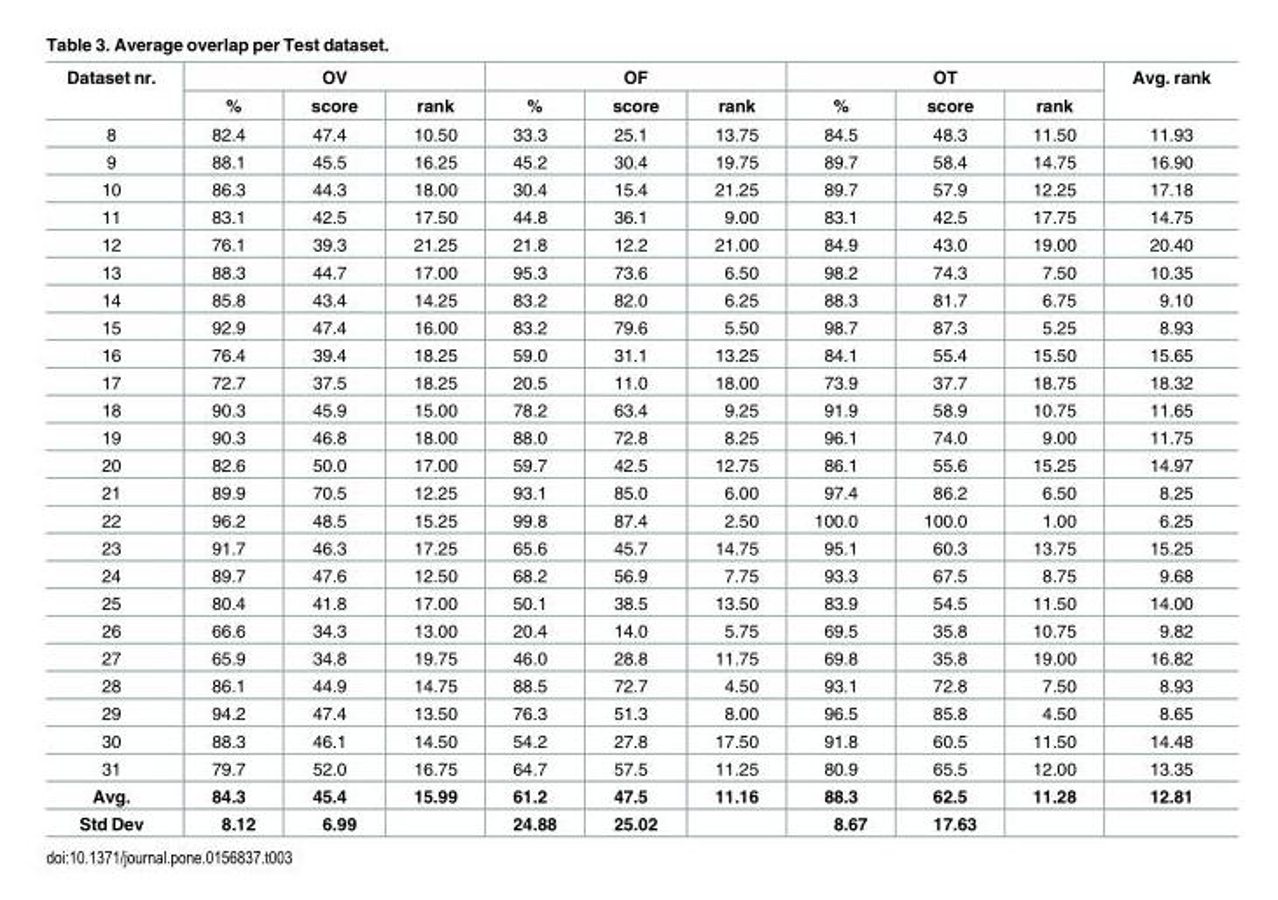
<table><thead><tr><td rowspan="2">Dataset nr.</td><td colspan="3">OV</td><td colspan="3">OF</td><td colspan="3">OT</td><td rowspan="2">Avg. rank</td></tr><tr><td>%</td><td>score</td><td>rank</td><td>%</td><td>score</td><td>rank</td><td>%</td><td>score</td><td>rank</td></tr></thead><tbody><tr><td>8</td><td>82.4</td><td>47.4</td><td>10.50</td><td>33.3</td><td>25.1</td><td>13.75</td><td>84.5</td><td>48.3</td><td>11.50</td><td>11.93</td></tr><tr><td>9</td><td>88.1</td><td>45.5</td><td>16.25</td><td>45.2</td><td>30.4</td><td>19.75</td><td>89.7</td><td>58.4</td><td>14.75</td><td>16.90</td></tr><tr><td>10</td><td>86.3</td><td>44.3</td><td>18.00</td><td>30.4</td><td>15.4</td><td>21.25</td><td>89.7</td><td>57.9</td><td>12.25</td><td>17.18</td></tr><tr><td>11</td><td>83.1</td><td>42.5</td><td>17.50</td><td>44.8</td><td>36.1</td><td>9.00</td><td>83.1</td><td>42.5</td><td>17.75</td><td>14.75</td></tr><tr><td>12</td><td>76.1</td><td>39.3</td><td>21.25</td><td>21.8</td><td>12.2</td><td>21.00</td><td>84.9</td><td>43.0</td><td>19.00</td><td>20.40</td></tr><tr><td>13</td><td>88.3</td><td>44.7</td><td>17.00</td><td>95.3</td><td>73.6</td><td>6.50</td><td>98.2</td><td>74.3</td><td>7.50</td><td>10.35</td></tr><tr><td>14</td><td>85.8</td><td>43.4</td><td>14.25</td><td>83.2</td><td>82.0</td><td>6.25</td><td>88.3</td><td>81.7</td><td>6.75</td><td>9.10</td></tr><tr><td>15</td><td>92.9</td><td>47.4</td><td>16.00</td><td>83.2</td><td>79.6</td><td>5.50</td><td>98.7</td><td>87.3</td><td>5.25</td><td>8.93</td></tr><tr><td>16</td><td>76.4</td><td>39.4</td><td>18.25</td><td>59.0</td><td>31.1</td><td>13.25</td><td>84.1</td><td>55.4</td><td>15.50</td><td>15.65</td></tr><tr><td>17</td><td>72.7</td><td>37.5</td><td>18.25</td><td>20.5</td><td>11.0</td><td>18.00</td><td>73.9</td><td>37.7</td><td>18.75</td><td>18.32</td></tr><tr><td>18</td><td>90.3</td><td>45.9</td><td>15.00</td><td>78.2</td><td>63.4</td><td>9.25</td><td>91.9</td><td>58.9</td><td>10.75</td><td>11.65</td></tr><tr><td>19</td><td>90.3</td><td>46.8</td><td>18.00</td><td>88.0</td><td>72.8</td><td>8.25</td><td>96.1</td><td>74.0</td><td>9.00</td><td>11.75</td></tr><tr><td>20</td><td>82.6</td><td>50.0</td><td>17.00</td><td>59.7</td><td>42.5</td><td>12.75</td><td>86.1</td><td>55.6</td><td>15.25</td><td>14.97</td></tr><tr><td>21</td><td>89.9</td><td>70.5</td><td>12.25</td><td>93.1</td><td>85.0</td><td>6.00</td><td>97.4</td><td>86.2</td><td>6.50</td><td>8.25</td></tr><tr><td>22</td><td>96.2</td><td>48.5</td><td>15.25</td><td>99.8</td><td>87.4</td><td>2.50</td><td>100.0</td><td>100.0</td><td>1.00</td><td>6.25</td></tr><tr><td>23</td><td>91.7</td><td>46.3</td><td>17.25</td><td>65.6</td><td>45.7</td><td>14.75</td><td>95.1</td><td>60.3</td><td>13.75</td><td>15.25</td></tr><tr><td>24</td><td>89.7</td><td>47.6</td><td>12.50</td><td>68.2</td><td>56.9</td><td>7.75</td><td>93.3</td><td>67.5</td><td>8.75</td><td>9.68</td></tr><tr><td>25</td><td>80.4</td><td>41.8</td><td>17.00</td><td>50.1</td><td>38.5</td><td>13.50</td><td>83.9</td><td>54.5</td><td>11.50</td><td>14.00</td></tr><tr><td>26</td><td>66.6</td><td>34.3</td><td>13.00</td><td>20.4</td><td>14.0</td><td>5.75</td><td>69.5</td><td>35.8</td><td>10.75</td><td>9.82</td></tr><tr><td>27</td><td>65.9</td><td>34.8</td><td>19.75</td><td>46.0</td><td>28.8</td><td>11.75</td><td>69.8</td><td>35.8</td><td>19.00</td><td>16.82</td></tr><tr><td>28</td><td>86.1</td><td>44.9</td><td>14.75</td><td>88.5</td><td>72.7</td><td>4.50</td><td>93.1</td><td>72.8</td><td>7.50</td><td>8.93</td></tr><tr><td>29</td><td>94.2</td><td>47.4</td><td>13.50</td><td>76.3</td><td>51.3</td><td>8.00</td><td>96.5</td><td>85.8</td><td>4.50</td><td>8.65</td></tr><tr><td>30</td><td>88.3</td><td>46.1</td><td>14.50</td><td>54.2</td><td>27.8</td><td>17.50</td><td>91.8</td><td>60.5</td><td>11.50</td><td>14.48</td></tr><tr><td>31</td><td>79.7</td><td>52.0</td><td>16.75</td><td>64.7</td><td>57.5</td><td>11.25</td><td>80.9</td><td>65.5</td><td>12.00</td><td>13.35</td></tr><tr><td>Avg.</td><td>84.3</td><td>45.4</td><td>15.99</td><td>61.2</td><td>47.5</td><td>11.16</td><td>88.3</td><td>62.5</td><td>11.28</td><td>12.81</td></tr><tr><td>Std Dev</td><td>8.12</td><td>6.99</td><td></td><td>24.88</td><td>25.02</td><td></td><td>8.67</td><td>17.63</td><td></td><td></td></tr></tbody></table>